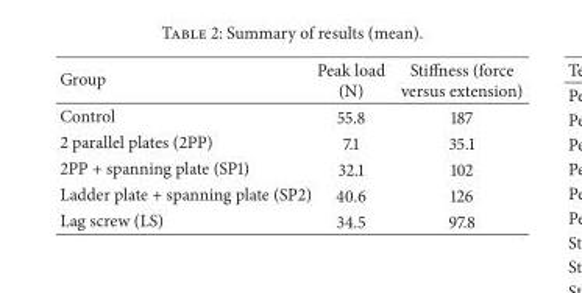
<table><thead><tr><td>Group</td><td>Peak load (N)</td><td>Stiffness (force versus extension)</td></tr></thead><tbody><tr><td>Control</td><td>55.8</td><td>187</td></tr><tr><td>2 parallel plates (2PP)</td><td>7.1</td><td>35.1</td></tr><tr><td>2PP + spanning plate (SP1)</td><td>32.1</td><td>102</td></tr><tr><td>Ladder plate + spanning plate (SP2)</td><td>40.6</td><td>126</td></tr><tr><td>Lag screw (LS)</td><td>34.5</td><td>97.8</td></tr></tbody></table>